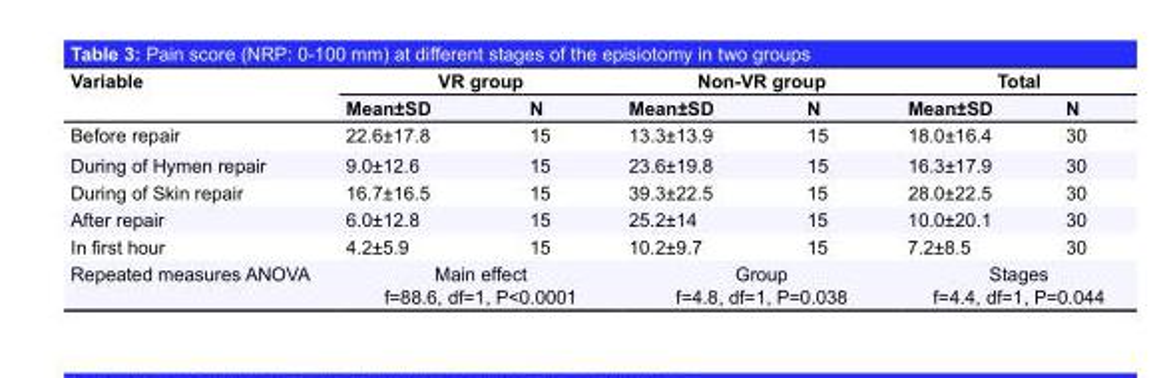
<table><thead><tr><td rowspan="2">Variable</td><td colspan="2">VR group</td><td colspan="2">Non-VR group</td><td colspan="2">Total</td></tr><tr><td>Mean±SD</td><td>N</td><td>Mean±SD</td><td>N</td><td>Mean±SD</td><td>N</td></tr></thead><tbody><tr><td>Before repair</td><td>22.6±17.8</td><td>15</td><td>13.3±13.9</td><td>15</td><td>18.0±16.4</td><td>30</td></tr><tr><td>During of Hymen repair</td><td>9.0±12.6</td><td>15</td><td>23.6±19.8</td><td>15</td><td>16.3±17.9</td><td>30</td></tr><tr><td>During of Skin repair</td><td>16.7±16.5</td><td>15</td><td>39.3±22.5</td><td>15</td><td>28.0±22.5</td><td>30</td></tr><tr><td>After repair</td><td>6.0±12.8</td><td>15</td><td>25.2±14</td><td>15</td><td>10.0±20.1</td><td>30</td></tr><tr><td>In first hour</td><td>4.2±5.9</td><td>15</td><td>10.2±9.7</td><td>15</td><td>7.2±8.5</td><td>30</td></tr><tr><td>Repeated measures ANOVA</td><td colspan="2">Main effect f=88.6, df=1, P&lt;0.0001</td><td colspan="2">Group f=4.8, df=1, P=0.038</td><td colspan="2">Stages f=4.4, df=1, P=0.044</td></tr></tbody></table>